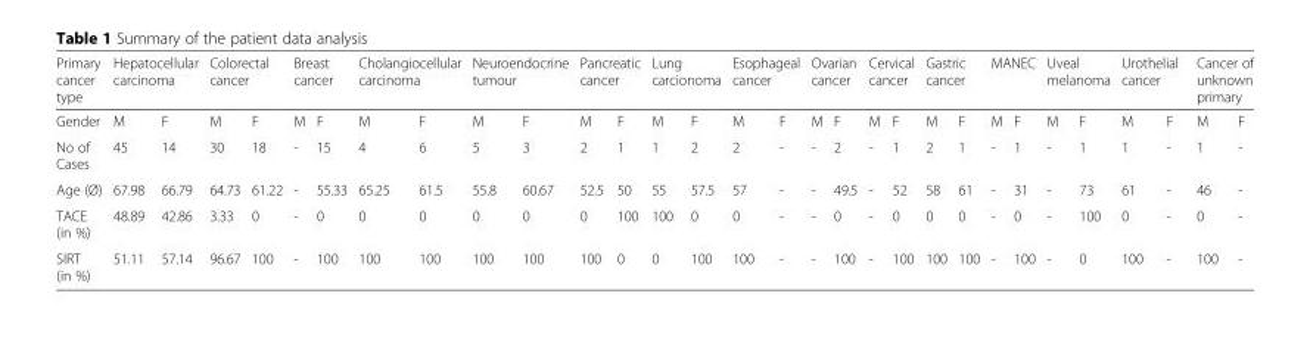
<table><thead><tr><td rowspan="2">Primary cancer type Gender</td><td colspan="2">Hepatocellular carcinoma</td><td colspan="2">Colorectal cancer</td><td colspan="2">Breast cancer</td><td colspan="2">Cholangiocellular carcinoma</td><td colspan="2">Neuroendocrine tumour</td><td colspan="2">Pancreatic cancer</td><td colspan="2">Lung carcionoma</td><td colspan="2">Esophageal cancer</td><td colspan="2">Ovarian cancer</td><td colspan="2">Cervical cancer</td><td colspan="2">Gastric cancer</td><td colspan="2">MANEC</td><td colspan="2">Uveal melanoma</td><td colspan="2">Urothelial cancer</td><td colspan="2">Cancer of unknown primary</td></tr><tr><td>M</td><td>F</td><td>M</td><td>F</td><td>M</td><td>F</td><td>M</td><td>F</td><td>M</td><td>F</td><td>M</td><td>F</td><td>M</td><td>F</td><td>M</td><td>F</td><td>M</td><td>F</td><td>M</td><td>F</td><td>M</td><td>F</td><td>M</td><td>F</td><td>M</td><td>F</td><td>M</td><td>F</td><td>M</td><td>F</td></tr></thead><tbody><tr><td>No of Cases</td><td>45</td><td>14</td><td>30</td><td>18</td><td>-</td><td>15</td><td>4</td><td>6</td><td>5</td><td>3</td><td>2</td><td>1</td><td>1</td><td>2</td><td>2</td><td>-</td><td>-</td><td>2</td><td>-</td><td>1</td><td>2</td><td>1</td><td>-</td><td>1</td><td>-</td><td>1</td><td>1</td><td>-</td><td>1</td><td>-</td></tr><tr><td>Age (Ø)</td><td>67.98</td><td>66.79</td><td>64.73</td><td>61.22</td><td>-</td><td>55.33</td><td>65.25</td><td>61.5</td><td>55.8</td><td>60.67</td><td>52.5</td><td>50</td><td>55</td><td>57.5</td><td>57</td><td>-</td><td>-</td><td>49.5</td><td>-</td><td>52</td><td>58</td><td>61</td><td>-</td><td>31</td><td>-</td><td>73</td><td>61</td><td>-</td><td>46</td><td>-</td></tr><tr><td>TACE (in %)</td><td>48.89</td><td>42.86</td><td>3.33</td><td>0</td><td>-</td><td>0</td><td>0</td><td>0</td><td>0</td><td>0</td><td>0</td><td>100</td><td>100</td><td>0</td><td>0</td><td>-</td><td>-</td><td>0</td><td>-</td><td>0</td><td>0</td><td>0</td><td>-</td><td>0</td><td>-</td><td>100</td><td>0</td><td>-</td><td>0</td><td>-</td></tr><tr><td>SIRT (in %)</td><td>51.11</td><td>57.14</td><td>96.67</td><td>100</td><td>-</td><td>100</td><td>100</td><td>100</td><td>100</td><td>100</td><td>100</td><td>0</td><td>0</td><td>100</td><td>100</td><td>-</td><td>-</td><td>100</td><td>-</td><td>100</td><td>100</td><td>100</td><td>-</td><td>100</td><td>-</td><td>0</td><td>100</td><td>-</td><td>100</td><td>-</td></tr></tbody></table>